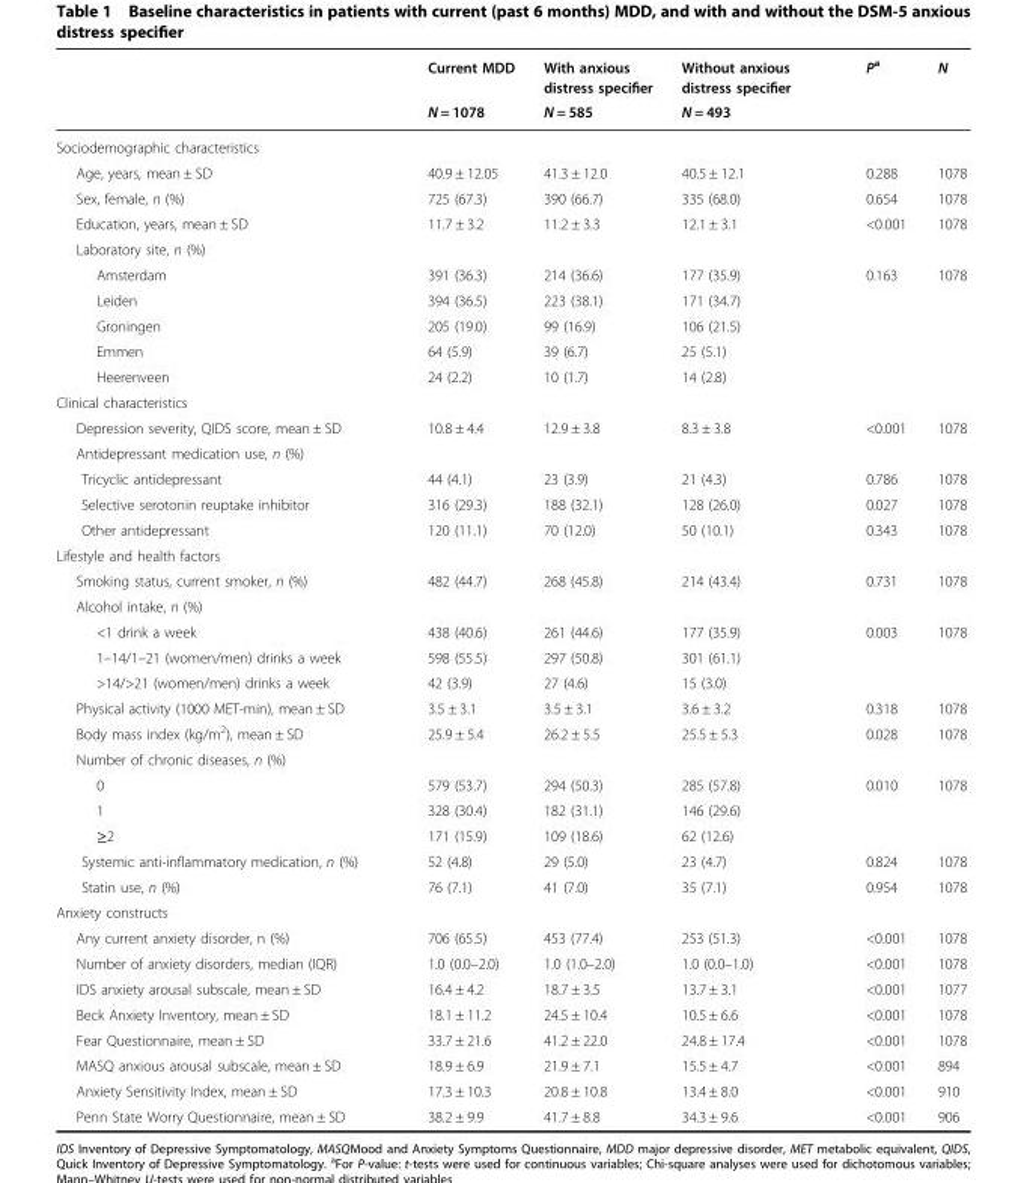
<table><thead><tr><td rowspan="2"></td><td rowspan="2">Current MDD N = 1078</td><td rowspan="2">With anxious distress specifier N = 585</td><td rowspan="2">Without anxious distress specifier N = 493</td><td rowspan="2">P<sup>a</sup></td><td rowspan="2">N</td></tr><tr></tr></thead><tbody><tr><td colspan="6">Sociodemographic characteristics</td></tr><tr><td>Age, years, mean ± SD</td><td>40.9 ± 12.05</td><td>41.3 ± 12.0</td><td>40.5 ± 12.1</td><td>0.288</td><td>1078</td></tr><tr><td>Sex, female, n (%)</td><td>725 (67.3)</td><td>390 (66.7)</td><td>335 (68.0)</td><td>0.654</td><td>1078</td></tr><tr><td>Education, years, mean ± SD</td><td>11.7 ± 3.2</td><td>11.2 ± 3.3</td><td>12.1 ± 3.1</td><td>&lt;0.001</td><td>1078</td></tr><tr><td colspan="6">Laboratory site, n (%)</td></tr><tr><td>Amsterdam</td><td>391 (36.3)</td><td>214 (36.6)</td><td>177 (35.9)</td><td>0.163</td><td>1078</td></tr><tr><td>Leiden</td><td>394 (36.5)</td><td>223 (38.1)</td><td>171 (34.7)</td><td></td><td></td></tr><tr><td>Groningen</td><td>205 (19.0)</td><td>99 (16.9)</td><td>106 (21.5)</td><td></td><td></td></tr><tr><td>Emmen</td><td>64 (5.9)</td><td>39 (6.7)</td><td>25 (5.1)</td><td></td><td></td></tr><tr><td>Heerenveen</td><td>24 (2.2)</td><td>10 (1.7)</td><td>14 (2.8)</td><td></td><td></td></tr><tr><td colspan="6">Clinical characteristics</td></tr><tr><td>Depression severity, QIDS score, mean ± SD</td><td>10.8 ± 4.4</td><td>12.9 ± 3.8</td><td>8.3 ± 3.8</td><td>&lt;0.001</td><td>1078</td></tr><tr><td colspan="6">Antidepressant medication use, n (%)</td></tr><tr><td>Tricyclic antidepressant</td><td>44 (4.1)</td><td>23 (3.9)</td><td>21 (4.3)</td><td>0.786</td><td>1078</td></tr><tr><td>Selective serotonin reuptake inhibitor</td><td>316 (29.3)</td><td>188 (32.1)</td><td>128 (26.0)</td><td>0.027</td><td>1078</td></tr><tr><td>Other antidepressant</td><td>120 (11.1)</td><td>70 (12.0)</td><td>50 (10.1)</td><td>0.343</td><td>1078</td></tr><tr><td colspan="6">Lifestyle and health factors</td></tr><tr><td>Smoking status, current smoker, n (%)</td><td>482 (44.7)</td><td>268 (45.8)</td><td>214 (43.4)</td><td>0.731</td><td>1078</td></tr><tr><td colspan="6">Alcohol intake, n (%)</td></tr><tr><td>&lt;1 drink a week</td><td>438 (40.6)</td><td>261 (44.6)</td><td>177 (35.9)</td><td>0.003</td><td>1078</td></tr><tr><td>1–14/1–21 (women/men) drinks a week</td><td>598 (55.5)</td><td>297 (50.8)</td><td>301 (61.1)</td><td></td><td></td></tr><tr><td>&gt;14/&gt;21 (women/men) drinks a week</td><td>42 (3.9)</td><td>27 (4.6)</td><td>15 (3.0)</td><td></td><td></td></tr><tr><td>Physical activity (1000 MET-min), mean ± SD</td><td>3.5 ± 3.1</td><td>3.5 ± 3.1</td><td>3.6 ± 3.2</td><td>0.318</td><td>1078</td></tr><tr><td>Body mass index (kg/m<sup>2</sup>), mean ± SD</td><td>25.9 ± 5.4</td><td>26.2 ± 5.5</td><td>25.5 ± 5.3</td><td>0.028</td><td>1078</td></tr><tr><td colspan="6">Number of chronic diseases, n (%)</td></tr><tr><td>0</td><td>579 (53.7)</td><td>294 (50.3)</td><td>285 (57.8)</td><td>0.010</td><td>1078</td></tr><tr><td>1</td><td>328 (30.4)</td><td>182 (31.1)</td><td>146 (29.6)</td><td></td><td></td></tr><tr><td>≥2</td><td>171 (15.9)</td><td>109 (18.6)</td><td>62 (12.6)</td><td></td><td></td></tr><tr><td>Systemic anti-inflammatory medication, n (%)</td><td>52 (4.8)</td><td>29 (5.0)</td><td>23 (4.7)</td><td>0.824</td><td>1078</td></tr><tr><td>Statin use, n (%)</td><td>76 (7.1)</td><td>41 (7.0)</td><td>35 (7.1)</td><td>0.954</td><td>1078</td></tr><tr><td colspan="6">Anxiety constructs</td></tr><tr><td>Any current anxiety disorder, n (%)</td><td>706 (65.5)</td><td>453 (77.4)</td><td>253 (51.3)</td><td>&lt;0.001</td><td>1078</td></tr><tr><td>Number of anxiety disorders, median (IQR)</td><td>1.0 (0.0–2.0)</td><td>1.0 (1.0–2.0)</td><td>1.0 (0.0–1.0)</td><td>&lt;0.001</td><td>1078</td></tr><tr><td>IDS anxiety arousal subscale, mean ± SD</td><td>16.4 ± 4.2</td><td>18.7 ± 3.5</td><td>13.7 ± 3.1</td><td>&lt;0.001</td><td>1077</td></tr><tr><td>Beck Anxiety Inventory, mean ± SD</td><td>18.1 ± 11.2</td><td>24.5 ± 10.4</td><td>10.5 ± 6.6</td><td>&lt;0.001</td><td>1078</td></tr><tr><td>Fear Questionnaire, mean ± SD</td><td>33.7 ± 21.6</td><td>41.2 ± 22.0</td><td>24.8 ± 17.4</td><td>&lt;0.001</td><td>1078</td></tr><tr><td>MASQ anxious arousal subscale, mean ± SD</td><td>18.9 ± 6.9</td><td>21.9 ± 7.1</td><td>15.5 ± 4.7</td><td>&lt;0.001</td><td>894</td></tr><tr><td>Anxiety Sensitivity Index, mean ± SD</td><td>17.3 ± 10.3</td><td>20.8 ± 10.8</td><td>13.4 ± 8.0</td><td>&lt;0.001</td><td>910</td></tr><tr><td>Penn State Worry Questionnaire, mean ± SD</td><td>38.2 ± 9.9</td><td>41.7 ± 8.8</td><td>34.3 ± 9.6</td><td>&lt;0.001</td><td>906</td></tr></tbody></table>